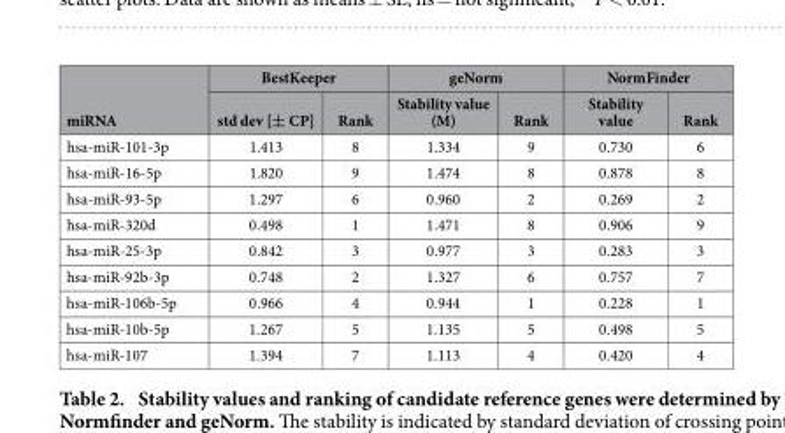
<table><thead><tr><td rowspan="2">miRNA</td><td colspan="2">BestKeeper</td><td colspan="2">geNorm</td><td colspan="2">NormFinder</td></tr><tr><td>std dev [± CP]</td><td>Rank</td><td>Stability value (M)</td><td>Rank</td><td>Stability value</td><td>Rank</td></tr></thead><tbody><tr><td>hsa-miR-101-3p</td><td>1.413</td><td>8</td><td>1.334</td><td>9</td><td>0.730</td><td>6</td></tr><tr><td>hsa-miR-16-5p</td><td>1.820</td><td>9</td><td>1.474</td><td>8</td><td>0.878</td><td>8</td></tr><tr><td>hsa-miR-93-5p</td><td>1.297</td><td>6</td><td>0.960</td><td>2</td><td>0.269</td><td>2</td></tr><tr><td>hsa-miR-320d</td><td>0.498</td><td>1</td><td>1.471</td><td>8</td><td>0.906</td><td>9</td></tr><tr><td>hsa-miR-25-3p</td><td>0.842</td><td>3</td><td>0.977</td><td>3</td><td>0.283</td><td>3</td></tr><tr><td>hsa-miR-92b-3p</td><td>0.748</td><td>2</td><td>1.327</td><td>6</td><td>0.757</td><td>7</td></tr><tr><td>hsa-miR-106b-5p</td><td>0.966</td><td>4</td><td>0.944</td><td>1</td><td>0.228</td><td>1</td></tr><tr><td>hsa-miR-10b-5p</td><td>1.267</td><td>5</td><td>1.135</td><td>5</td><td>0.498</td><td>5</td></tr><tr><td>hsa-miR-107</td><td>1.394</td><td>7</td><td>1.113</td><td>4</td><td>0.420</td><td>4</td></tr></tbody></table>